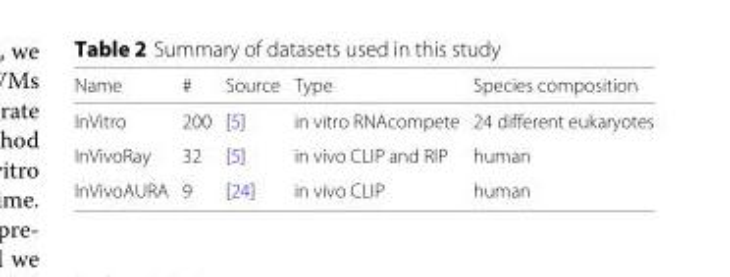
<table><thead><tr><td>Name</td><td>#</td><td>Source</td><td>Type</td><td>Species composition</td></tr></thead><tbody><tr><td>InVitro</td><td>200</td><td>[5]</td><td>in vitro RNAcompete</td><td>24 different eukaryotes</td></tr><tr><td>InVivoRay</td><td>32</td><td>[5]</td><td>in vivo CLIP and RIP</td><td>human</td></tr><tr><td>InVivoAURA</td><td>9</td><td>[24]</td><td>in vivo CLIP</td><td>human</td></tr></tbody></table>